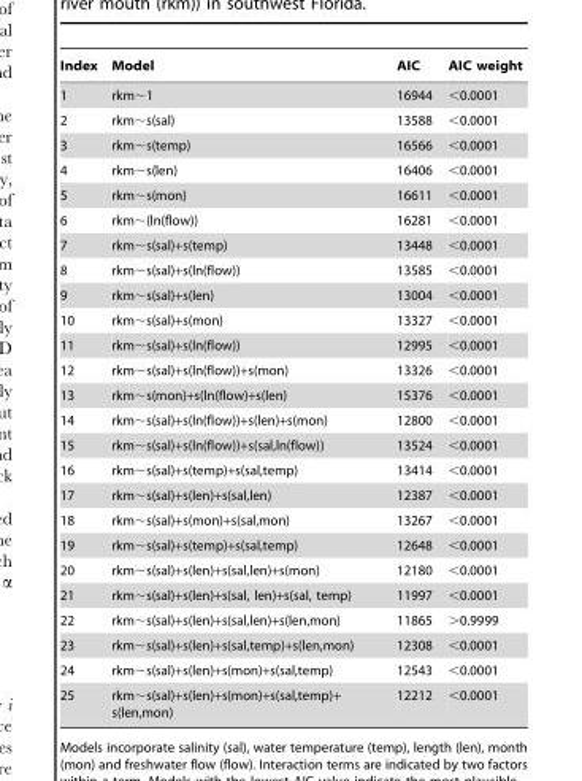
<table><thead><tr><td>Index</td><td>Model</td><td>AIC</td><td>AIC weight</td></tr></thead><tbody><tr><td>1</td><td>rkm∼1</td><td>16944</td><td>&lt;0.0001</td></tr><tr><td>2</td><td>rkm∼s(sal)</td><td>13588</td><td>&lt;0.0001</td></tr><tr><td>3</td><td>rkm∼s(temp)</td><td>16566</td><td>&lt;0.0001</td></tr><tr><td>4</td><td>rkm∼s(len)</td><td>16406</td><td>&lt;0.0001</td></tr><tr><td>5</td><td>rkm∼s(mon)</td><td>16611</td><td>&lt;0.0001</td></tr><tr><td>6</td><td>rkm∼(ln(flow))</td><td>16281</td><td>&lt;0.0001</td></tr><tr><td>7</td><td>rkm∼s(sal)+s(temp)</td><td>13448</td><td>&lt;0.0001</td></tr><tr><td>8</td><td>rkm∼s(sal)+s(ln(flow))</td><td>13585</td><td>&lt;0.0001</td></tr><tr><td>9</td><td>rkm∼s(sal)+s(len)</td><td>13004</td><td>&lt;0.0001</td></tr><tr><td>10</td><td>rkm∼s(sal)+s(mon)</td><td>13327</td><td>&lt;0.0001</td></tr><tr><td>11</td><td>rkm∼s(sal)+s(ln(flow))</td><td>12995</td><td>&lt;0.0001</td></tr><tr><td>12</td><td>rkm∼s(sal)+s(ln(flow))+s(mon)</td><td>13326</td><td>&lt;0.0001</td></tr><tr><td>13</td><td>rkm∼s(mon)+s(ln(flow)+s(len)</td><td>15376</td><td>&lt;0.0001</td></tr><tr><td>14</td><td>rkm∼s(sal)+s(ln(flow))+s(len)+s(mon)</td><td>12800</td><td>&lt;0.0001</td></tr><tr><td>15</td><td>rkm∼s(sal)+s(ln(flow))+s(sal,ln(flow))</td><td>13524</td><td>&lt;0.0001</td></tr><tr><td>16</td><td>rkm∼s(sal)+s(temp)+s(sal,temp)</td><td>13414</td><td>&lt;0.0001</td></tr><tr><td>17</td><td>rkm∼s(sal)+s(len)+s(sal,len)</td><td>12387</td><td>&lt;0.0001</td></tr><tr><td>18</td><td>rkm∼s(sal)+s(mon)+s(sal,mon)</td><td>13267</td><td>&lt;0.0001</td></tr><tr><td>19</td><td>rkm∼s(sal)+s(temp)+s(sal,temp)</td><td>12648</td><td>&lt;0.0001</td></tr><tr><td>20</td><td>rkm∼s(sal)+s(len)+s(sal,len)+s(mon)</td><td>12180</td><td>&lt;0.0001</td></tr><tr><td>21</td><td>rkm∼s(sal)+s(len)+s(sal, len)+s(sal, temp)</td><td>11997</td><td>&lt;0.0001</td></tr><tr><td>22</td><td>rkm∼s(sal)+s(len)+s(sal,len)+s(len,mon)</td><td>11865</td><td>&gt;0.9999</td></tr><tr><td>23</td><td>rkm∼s(sal)+s(len)+s(sal,temp)+s(len,mon)</td><td>12308</td><td>&lt;0.0001</td></tr><tr><td>24</td><td>rkm∼s(sal)+s(len)+s(mon)+s(sal,temp)</td><td>12543</td><td>&lt;0.0001</td></tr><tr><td>25</td><td>rkm∼s(sal)+s(len)+s(mon)+s(sal,temp)+ s(len,mon)</td><td>12212</td><td>&lt;0.0001</td></tr></tbody></table>